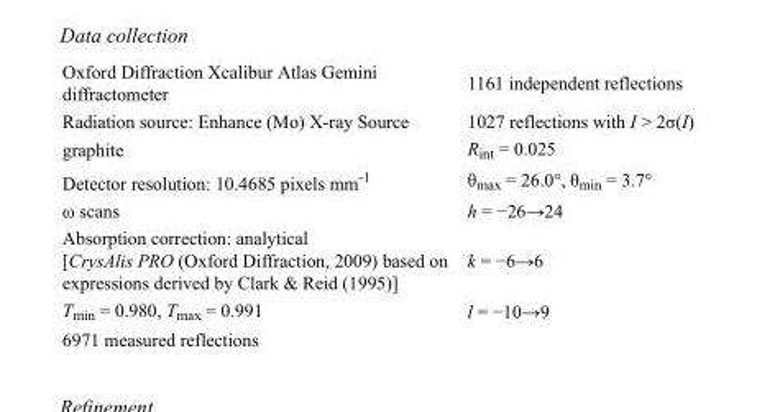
<table><tbody><tr><td>Oxford Diffraction Xcalibur Atlas Gemini diffractometer</td><td>1161 independent reflections</td></tr><tr><td>Radiation source: Enhance (Mo) X-ray Source</td><td>1027 reflections with I &gt; 2σ(I)</td></tr><tr><td>graphite</td><td>R<sub>int</sub> = 0.025</td></tr><tr><td>Detector resolution: 10.4685 pixels mm<sup>-1</sup></td><td>θ<sub>max</sub> = 26.0°, θ<sub>min</sub> = 3.7°</td></tr><tr><td>ω scans</td><td>h = −26→24</td></tr><tr><td>Absorption correction: analytical [CrysAlis PRO (Oxford Diffraction, 2009) based on expressions derived by Clark &amp; Reid (1995)]</td><td>k = −6→6</td></tr><tr><td>T<sub>min</sub> = 0.980, T<sub>max</sub> = 0.991</td><td>l = −10→9</td></tr><tr><td>6971 measured reflections</td><td></td></tr></tbody></table>